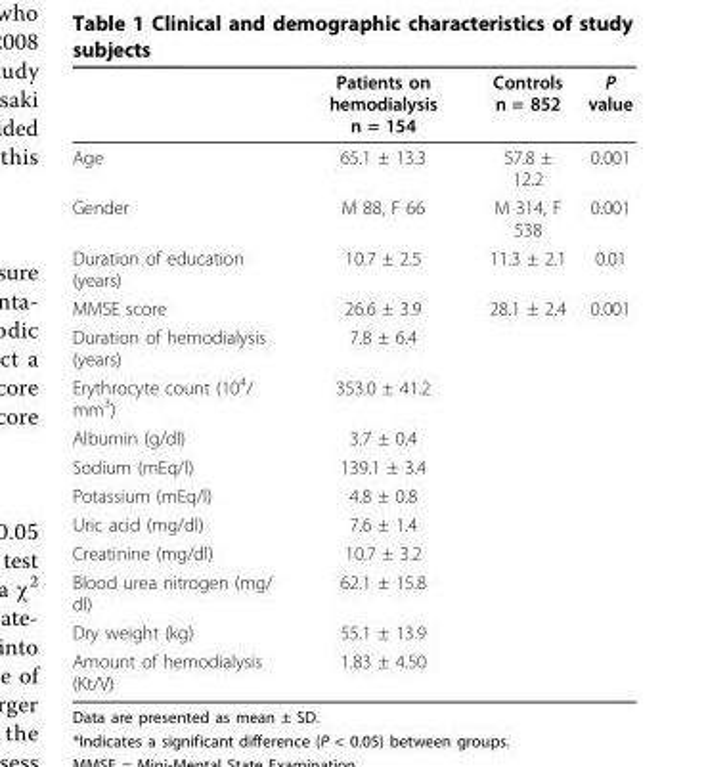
<table><thead><tr><td></td><td>Patients on hemodialysis n = 154</td><td>Controls n = 852</td><td>P value</td></tr></thead><tbody><tr><td>Age</td><td>65.1 ± 13.3</td><td>57.8 ± 12.2</td><td>0.001</td></tr><tr><td>Gender</td><td>M 88, F 66</td><td>M 314, F 538</td><td>0.001</td></tr><tr><td>Duration of education (years)</td><td>10.7 ± 2.5</td><td>11.3 ± 2.1</td><td>0.01</td></tr><tr><td>MMSE score</td><td>26.6 ± 3.9</td><td>28.1 ± 2.4</td><td>0.001</td></tr><tr><td>Duration of hemodialysis (years)</td><td>7.8 ± 6.4</td><td></td><td></td></tr><tr><td>Erythrocyte count (10<sup>4</sup>/ mm<sup>3</sup>)</td><td>353.0 ± 41.2</td><td></td><td></td></tr><tr><td>Albumin (g/dl)</td><td>3.7 ± 0.4</td><td></td><td></td></tr><tr><td>Sodium (mEq/l)</td><td>139.1 ± 3.4</td><td></td><td></td></tr><tr><td>Potassium (mEq/l)</td><td>4.8 ± 0.8</td><td></td><td></td></tr><tr><td>Uric acid (mg/dl)</td><td>7.6 ± 1.4</td><td></td><td></td></tr><tr><td>Creatinine (mg/dl)</td><td>10.7 ± 3.2</td><td></td><td></td></tr><tr><td>Blood urea nitrogen (mg/ dl)</td><td>62.1 ± 15.8</td><td></td><td></td></tr><tr><td>Dry weight (kg)</td><td>55.1 ± 13.9</td><td></td><td></td></tr><tr><td>Amount of hemodialysis (Kt/V)</td><td>1.83 ± 4.50</td><td></td><td></td></tr></tbody></table>